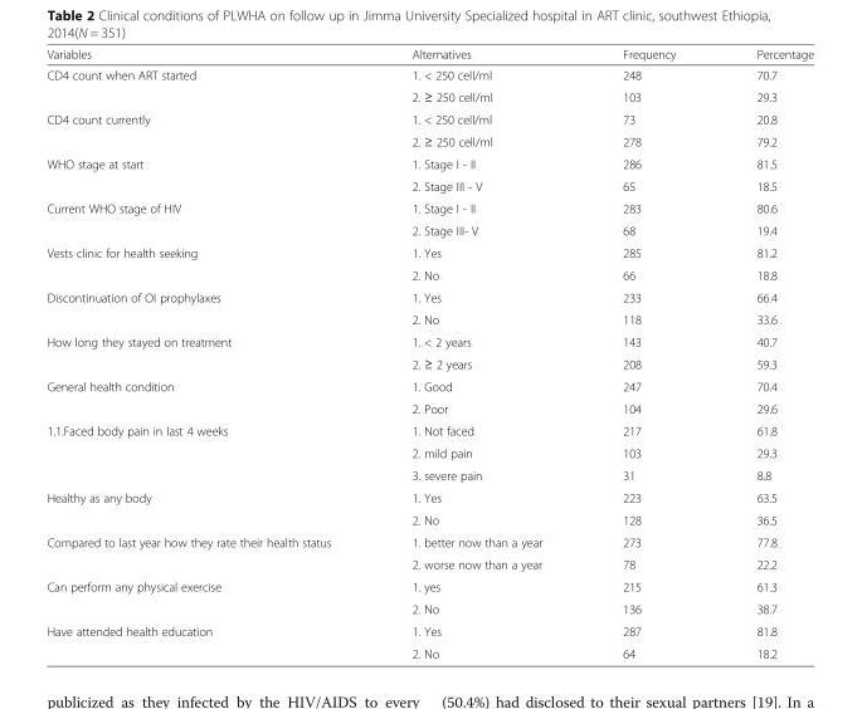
<table><thead><tr><td>Variables</td><td>Alternatives</td><td>Frequency</td><td>Percentage</td></tr></thead><tbody><tr><td rowspan="2">CD4 count when ART started</td><td>1. &lt; 250 cell/ml</td><td>248</td><td>70.7</td></tr><tr><td>2. ≥ 250 cell/ml</td><td>103</td><td>29.3</td></tr><tr><td rowspan="2">CD4 count currently</td><td>1. &lt; 250 cell/ml</td><td>73</td><td>20.8</td></tr><tr><td>2. ≥ 250 cell/ml</td><td>278</td><td>79.2</td></tr><tr><td rowspan="2">WHO stage at start</td><td>1. Stage I - II</td><td>286</td><td>81.5</td></tr><tr><td>2. Stage III - V</td><td>65</td><td>18.5</td></tr><tr><td rowspan="2">Current WHO stage of HIV</td><td>1. Stage I - II</td><td>283</td><td>80.6</td></tr><tr><td>2. Stage III- V</td><td>68</td><td>19.4</td></tr><tr><td rowspan="2">Vests clinic for health seeking</td><td>1. Yes</td><td>285</td><td>81.2</td></tr><tr><td>2. No</td><td>66</td><td>18.8</td></tr><tr><td rowspan="2">Discontinuation of OI prophylaxes</td><td>1. Yes</td><td>233</td><td>66.4</td></tr><tr><td>2. No</td><td>118</td><td>33.6</td></tr><tr><td rowspan="2">How long they stayed on treatment</td><td>1. &lt; 2 years</td><td>143</td><td>40.7</td></tr><tr><td>2. ≥ 2 years</td><td>208</td><td>59.3</td></tr><tr><td rowspan="2">General health condition</td><td>1. Good</td><td>247</td><td>70.4</td></tr><tr><td>2. Poor</td><td>104</td><td>29.6</td></tr><tr><td rowspan="3">1.1.Faced body pain in last 4 weeks</td><td>1. Not faced</td><td>217</td><td>61.8</td></tr><tr><td>2. mild pain</td><td>103</td><td>29.3</td></tr><tr><td>3. severe pain</td><td>31</td><td>8.8</td></tr><tr><td rowspan="2">Healthy as any body</td><td>1. Yes</td><td>223</td><td>63.5</td></tr><tr><td>2. No</td><td>128</td><td>36.5</td></tr><tr><td rowspan="2">Compared to last year how they rate their health status</td><td>1. better now than a year</td><td>273</td><td>77.8</td></tr><tr><td>2. worse now than a year</td><td>78</td><td>22.2</td></tr><tr><td rowspan="2">Can perform any physical exercise</td><td>1. yes</td><td>215</td><td>61.3</td></tr><tr><td>2. No</td><td>136</td><td>38.7</td></tr><tr><td rowspan="2">Have attended health education</td><td>1. Yes</td><td>287</td><td>81.8</td></tr><tr><td>2. No</td><td>64</td><td>18.2</td></tr></tbody></table>